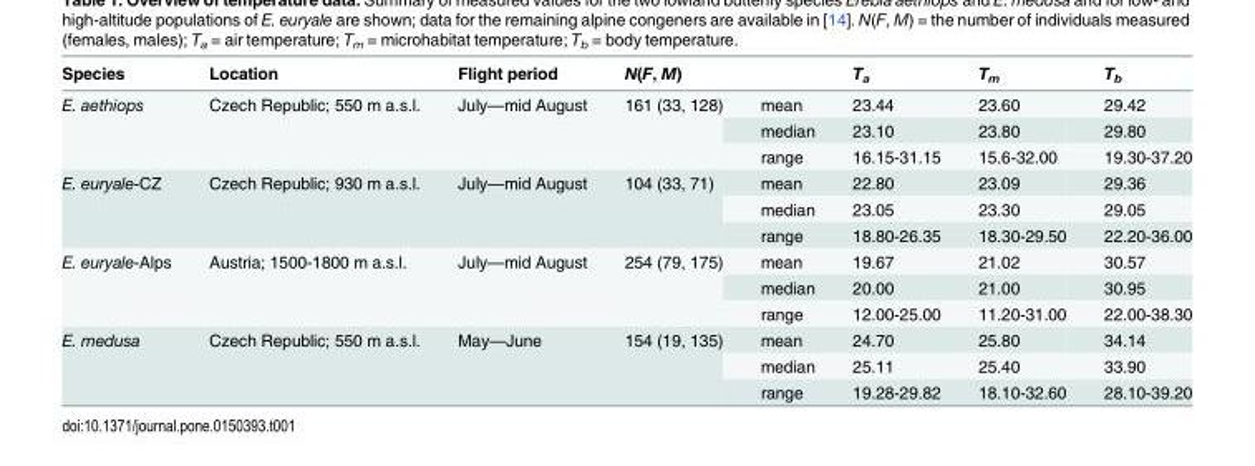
<table><thead><tr><td>Species</td><td>Location</td><td>Flight period</td><td>N(F, M)</td><td></td><td>T<sub>a</sub></td><td>T<sub>m</sub></td><td>T<sub>b</sub></td></tr></thead><tbody><tr><td rowspan="3">E. aethiops</td><td rowspan="3">Czech Republic; 550 m a.s.l.</td><td rowspan="3">July—mid August</td><td rowspan="3">161 (33, 128)</td><td>mean</td><td>23.44</td><td>23.60</td><td>29.42</td></tr><tr><td>median</td><td>23.10</td><td>23.80</td><td>29.80</td></tr><tr><td>range</td><td>16.15-31.15</td><td>15.6-32.00</td><td>19.30-37.20</td></tr><tr><td rowspan="3">E. euryale-CZ</td><td rowspan="3">Czech Republic; 930 m a.s.l.</td><td rowspan="3">July—mid August</td><td rowspan="3">104 (33, 71)</td><td>mean</td><td>22.80</td><td>23.09</td><td>29.36</td></tr><tr><td>median</td><td>23.05</td><td>23.30</td><td>29.05</td></tr><tr><td>range</td><td>18.80-26.35</td><td>18.30-29.50</td><td>22.20-36.00</td></tr><tr><td rowspan="3">E. euryale-Alps</td><td rowspan="3">Austria; 1500-1800 m a.s.l.</td><td rowspan="3">July—mid August</td><td rowspan="3">254 (79, 175)</td><td>mean</td><td>19.67</td><td>21.02</td><td>30.57</td></tr><tr><td>median</td><td>20.00</td><td>21.00</td><td>30.95</td></tr><tr><td>range</td><td>12.00-25.00</td><td>11.20-31.00</td><td>22.00-38.30</td></tr><tr><td rowspan="3">E. medusa</td><td rowspan="3">Czech Republic; 550 m a.s.l.</td><td rowspan="3">May—June</td><td rowspan="3">154 (19, 135)</td><td>mean</td><td>24.70</td><td>25.80</td><td>34.14</td></tr><tr><td>median</td><td>25.11</td><td>25.40</td><td>33.90</td></tr><tr><td>range</td><td>19.28-29.82</td><td>18.10-32.60</td><td>28.10-39.20</td></tr></tbody></table>